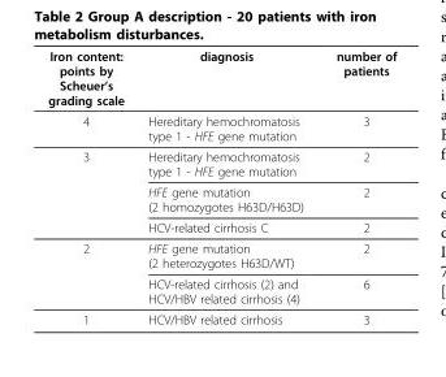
<table><thead><tr><td>Iron content: points by Scheuer’s grading scale</td><td>diagnosis</td><td>number of patients</td></tr></thead><tbody><tr><td>4</td><td>Hereditary hemochromatosis type 1 - HFE gene mutation</td><td>3</td></tr><tr><td rowspan="3">3</td><td>Hereditary hemochromatosis type 1 - HFE gene mutation</td><td>2</td></tr><tr><td>HFE gene mutation (2 homozygotes H63D/H63D)</td><td>2</td></tr><tr><td>HCV-related cirrhosis C</td><td>2</td></tr><tr><td rowspan="2">2</td><td>HFE gene mutation (2 heterozygotes H63D/WT)</td><td>2</td></tr><tr><td>HCV-related cirrhosis (2) and HCV/HBV related cirrhosis (4)</td><td>6</td></tr><tr><td>1</td><td>HCV/HBV related cirrhosis</td><td>3</td></tr></tbody></table>